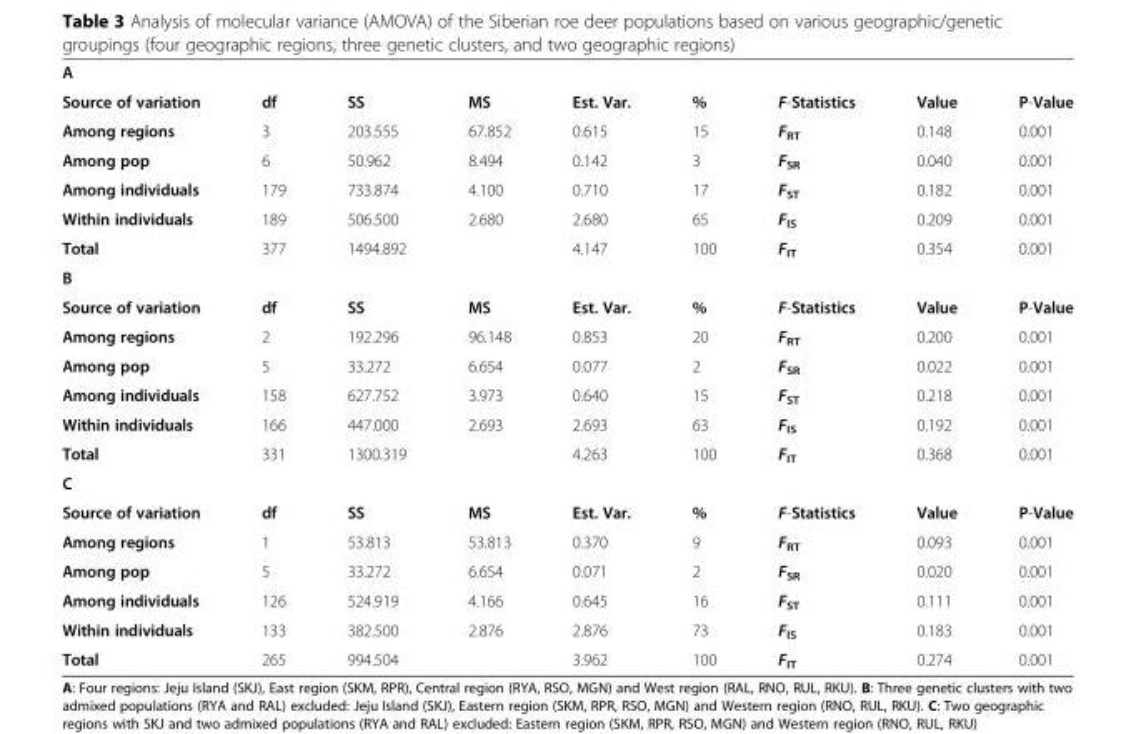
<table><tbody><tr><td colspan="9">A</td></tr><tr><td>Source of variation</td><td>df</td><td>SS</td><td>MS</td><td>Est. Var.</td><td>%</td><td>F-Statistics</td><td>Value</td><td>P-Value</td></tr><tr><td>Among regions</td><td>3</td><td>203.555</td><td>67.852</td><td>0.615</td><td>15</td><td>F<sub>RT</sub></td><td>0.148</td><td>0.001</td></tr><tr><td>Among pop</td><td>6</td><td>50.962</td><td>8.494</td><td>0.142</td><td>3</td><td>F<sub>SR</sub></td><td>0.040</td><td>0.001</td></tr><tr><td>Among individuals</td><td>179</td><td>733.874</td><td>4.100</td><td>0.710</td><td>17</td><td>F<sub>ST</sub></td><td>0.182</td><td>0.001</td></tr><tr><td>Within individuals</td><td>189</td><td>506.500</td><td>2.680</td><td>2.680</td><td>65</td><td>F<sub>IS</sub></td><td>0.209</td><td>0.001</td></tr><tr><td>Total</td><td>377</td><td>1494.892</td><td></td><td>4.147</td><td>100</td><td>F<sub>IT</sub></td><td>0.354</td><td>0.001</td></tr><tr><td colspan="9">B</td></tr><tr><td>Source of variation</td><td>df</td><td>SS</td><td>MS</td><td>Est. Var.</td><td>%</td><td>F-Statistics</td><td>Value</td><td>P-Value</td></tr><tr><td>Among regions</td><td>2</td><td>192.296</td><td>96.148</td><td>0.853</td><td>20</td><td>F<sub>RT</sub></td><td>0.200</td><td>0.001</td></tr><tr><td>Among pop</td><td>5</td><td>33.272</td><td>6.654</td><td>0.077</td><td>2</td><td>F<sub>SR</sub></td><td>0.022</td><td>0.001</td></tr><tr><td>Among individuals</td><td>158</td><td>627.752</td><td>3.973</td><td>0.640</td><td>15</td><td>F<sub>ST</sub></td><td>0.218</td><td>0.001</td></tr><tr><td>Within individuals</td><td>166</td><td>447.000</td><td>2.693</td><td>2.693</td><td>63</td><td>F<sub>IS</sub></td><td>0.192</td><td>0.001</td></tr><tr><td>Total</td><td>331</td><td>1300.319</td><td></td><td>4.263</td><td>100</td><td>F<sub>IT</sub></td><td>0.368</td><td>0.001</td></tr><tr><td colspan="9">C</td></tr><tr><td>Source of variation</td><td>df</td><td>SS</td><td>MS</td><td>Est. Var.</td><td>%</td><td>F-Statistics</td><td>Value</td><td>P-Value</td></tr><tr><td>Among regions</td><td>1</td><td>53.813</td><td>53.813</td><td>0.370</td><td>9</td><td>F<sub>RT</sub></td><td>0.093</td><td>0.001</td></tr><tr><td>Among pop</td><td>5</td><td>33.272</td><td>6.654</td><td>0.071</td><td>2</td><td>F<sub>SR</sub></td><td>0.020</td><td>0.001</td></tr><tr><td>Among individuals</td><td>126</td><td>524.919</td><td>4.166</td><td>0.645</td><td>16</td><td>F<sub>ST</sub></td><td>0.111</td><td>0.001</td></tr><tr><td>Within individuals</td><td>133</td><td>382.500</td><td>2.876</td><td>2.876</td><td>73</td><td>F<sub>IS</sub></td><td>0.183</td><td>0.001</td></tr><tr><td>Total</td><td>265</td><td>994.504</td><td></td><td>3.962</td><td>100</td><td>F<sub>IT</sub></td><td>0.274</td><td>0.001</td></tr></tbody></table>